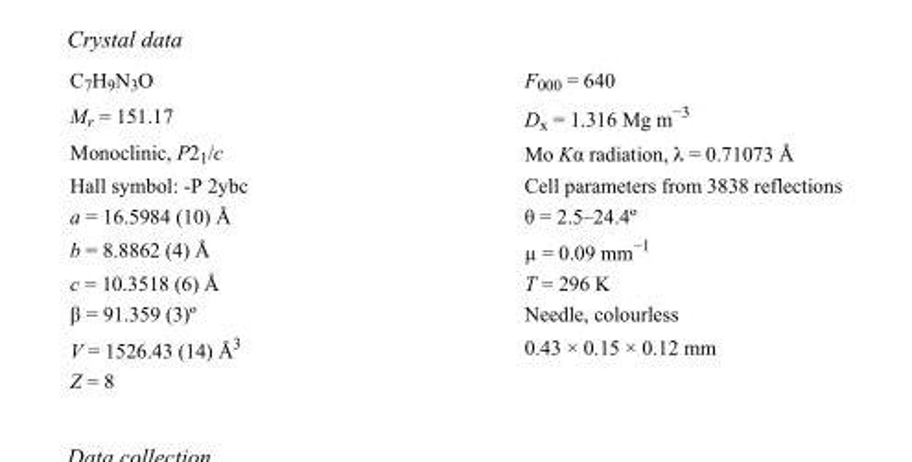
<table><tbody><tr><td>C<sub>7</sub>H<sub>9</sub>N<sub>3</sub>O</td><td>F000 = 640</td></tr><tr><td>M<sub>r</sub> = 151.17</td><td>D<sub>x</sub> = 1.316 Mg m<sup>−3</sup></td></tr><tr><td>Monoclinic, P2<sub>1</sub>/c</td><td>Mo Kα radiation, λ = 0.71073 Å</td></tr><tr><td>Hall symbol: -P 2ybc</td><td>Cell parameters from 3838 reflections</td></tr><tr><td>a = 16.5984 (10) Å</td><td>θ = 2.5–24.4º</td></tr><tr><td>b = 8.8862 (4) Å</td><td>µ = 0.09 mm<sup>−1</sup></td></tr><tr><td>c = 10.3518 (6) Å</td><td>T = 296 K</td></tr><tr><td>β = 91.359 (3)º</td><td>Needle, colourless</td></tr><tr><td>V = 1526.43 (14) Å<sup>3</sup></td><td>0.43 × 0.15 × 0.12 mm</td></tr><tr><td>Z = 8</td><td></td></tr></tbody></table>